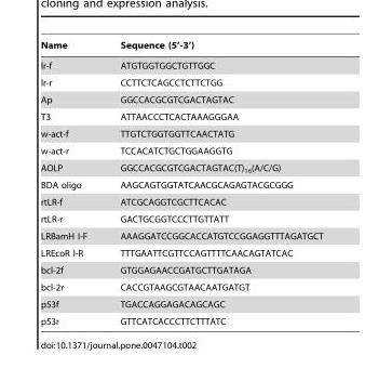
<table><thead><tr><td>Name</td><td>Sequence (5’-3’)</td></tr></thead><tbody><tr><td>lr-f</td><td>ATGTGGTGGCTGTTGGC</td></tr><tr><td>lr-r</td><td>CCTTCTCAGCCTCTTCTGG</td></tr><tr><td>Ap</td><td>GGCCACGCGTCGACTAGTAC</td></tr><tr><td>T3</td><td>ATTAACCCTCACTAAAGGGAA</td></tr><tr><td>w-act-f</td><td>TTGTCTGGTGGTTCAACTATG</td></tr><tr><td>w-act-r</td><td>TCCACATCTGCTGGAAGGTG</td></tr><tr><td>AOLP</td><td>GGCCACGCGTCGACTAGTAC(T)<sub>16</sub>(A/C/G)</td></tr><tr><td>BDA oligo</td><td>AAGCAGTGGTATCAACGCAGAGTACGCGGG</td></tr><tr><td>rtLR-f</td><td>ATCGCAGGTCGCTTCACAC</td></tr><tr><td>rtLR-r</td><td>GACTGCGGTCCCTTGTTATT</td></tr><tr><td>LRBamH I-F</td><td>AAAGGATCCGGCACCATGTCCGGAGGTTTAGATGCT</td></tr><tr><td>LREcoR I-R</td><td>TTTGAATTCGTTCCAGTTTTCAACAGTATCAC</td></tr><tr><td>bcl-2f</td><td>GTGGAGAACCGATGCTTGATAGA</td></tr><tr><td>bcl-2r</td><td>CACCGTAAGCGTAACAATGATGT</td></tr><tr><td>p53f</td><td>TGACCAGGAGACAGCAGC</td></tr><tr><td>p53r</td><td>GTTCATCACCCTTCTTTATC</td></tr></tbody></table>